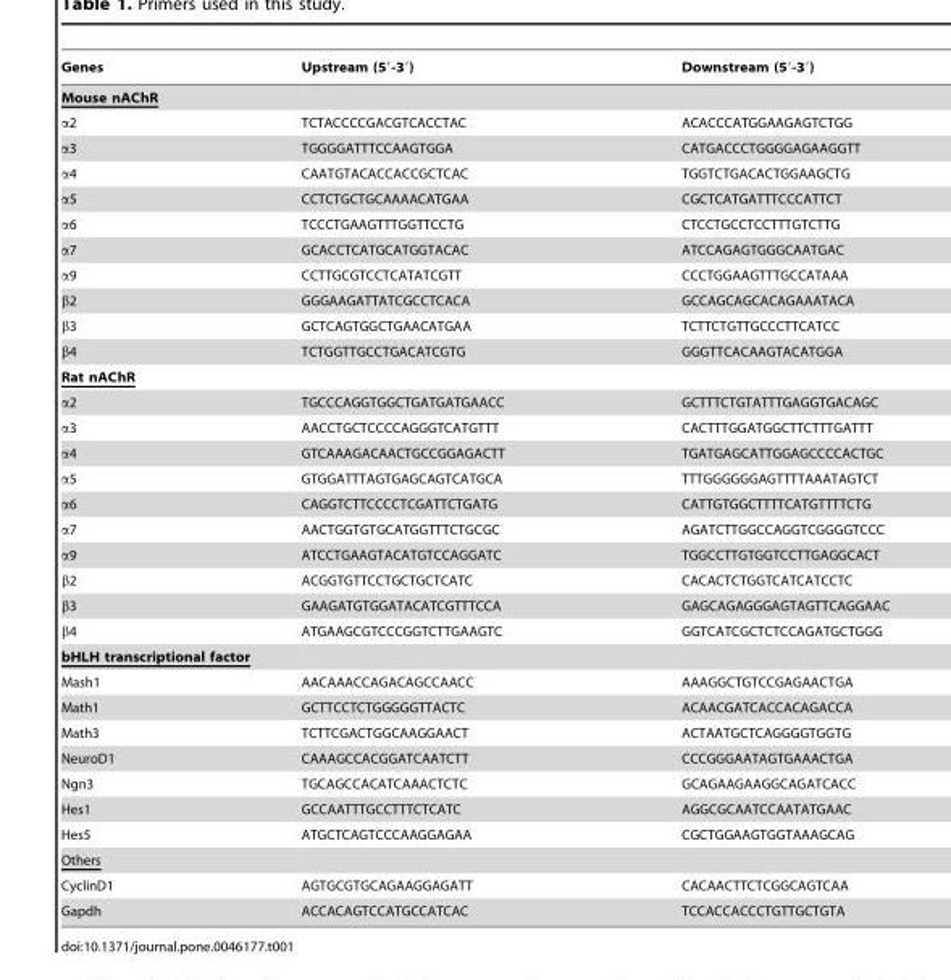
<table><thead><tr><td>Genes</td><td>Upstream (5′-3′)</td><td>Downstream (5′-3′)</td></tr></thead><tbody><tr><td colspan="3">Mouse nAChR</td></tr><tr><td>α2</td><td>TCTACCCCGACGTCACCTAC</td><td>ACACCCATGGAAGAGTCTGG</td></tr><tr><td>α3</td><td>TGGGGATTTCCAAGTGGA</td><td>CATGACCCTGGGGAGAAGGTT</td></tr><tr><td>α4</td><td>CAATGTACACCACCGCTCAC</td><td>TGGTCTGACACTGGAAGCTG</td></tr><tr><td>α5</td><td>CCTCTGCTGCAAAACATGAA</td><td>CGCTCATGATTTCCCATTCT</td></tr><tr><td>α6</td><td>TCCCTGAAGTTTGGTTCCTG</td><td>CTCCTGCCTCCTTTGTCTTG</td></tr><tr><td>α7</td><td>GCACCTCATGCATGGTACAC</td><td>ATCCAGAGTGGGCAATGAC</td></tr><tr><td>α9</td><td>CCTTGCGTCCTCATATCGTT</td><td>CCCTGGAAGTTTGCCATAAA</td></tr><tr><td>β2</td><td>GGGAAGATTATCGCCTCACA</td><td>GCCAGCAGCACAGAAATACA</td></tr><tr><td>β3</td><td>GCTCAGTGGCTGAACATGAA</td><td>TCTTCTGTTGCCCTTCATCC</td></tr><tr><td>β4</td><td>TCTGGTTGCCTGACATCGTG</td><td>GGGTTCACAAGTACATGGA</td></tr><tr><td colspan="3">Rat nAChR</td></tr><tr><td>α2</td><td>TGCCCAGGTGGCTGATGATGAACC</td><td>GCTTTCTGTATTTGAGGTGACAGC</td></tr><tr><td>α3</td><td>AACCTGCTCCCCAGGGTCATGTTT</td><td>CACTTTGGATGGCTTCTTTGATTT</td></tr><tr><td>α4</td><td>GTCAAAGACAACTGCCGGAGACTT</td><td>TGATGAGCATTGGAGCCCCACTGC</td></tr><tr><td>α5</td><td>GTGGATTTAGTGAGCAGTCATGCA</td><td>TTTGGGGGGAGTTTTAAATAGTCT</td></tr><tr><td>α6</td><td>CAGGTCTTCCCCTCGATTCTGATG</td><td>CATTGTGGCTTTTCATGTTTTCTG</td></tr><tr><td>α7</td><td>AACTGGTGTGCATGGTTTCTGCGC</td><td>AGATCTTGGCCAGGTCGGGGTCCC</td></tr><tr><td>α9</td><td>ATCCTGAAGTACATGTCCAGGATC</td><td>TGGCCTTGTGGTCCTTGAGGCACT</td></tr><tr><td>β2</td><td>ACGGTGTTCCTGCTGCTCATC</td><td>CACACTCTGGTCATCATCCTC</td></tr><tr><td>β3</td><td>GAAGATGTGGATACATCGTTTCCA</td><td>GAGCAGAGGGAGTAGTTCAGGAAC</td></tr><tr><td>β4</td><td>ATGAAGCGTCCCGGTCTTGAAGTC</td><td>GGTCATCGCTCTCCAGATGCTGGG</td></tr><tr><td colspan="3">bHLH transcriptional factor</td></tr><tr><td>Mash1</td><td>AACAAACCAGACAGCCAACC</td><td>AAAGGCTGTCCGAGAACTGA</td></tr><tr><td>Math1</td><td>GCTTCCTCTGGGGGTTACTC</td><td>ACAACGATCACCACAGACCA</td></tr><tr><td>Math3</td><td>TCTTCGACTGGCAAGGAACT</td><td>ACTAATGCTCAGGGGTGGTG</td></tr><tr><td>NeuroD1</td><td>CAAAGCCACGGATCAATCTT</td><td>CCCGGGAATAGTGAAACTGA</td></tr><tr><td>Ngn3</td><td>TGCAGCCACATCAAACTCTC</td><td>GCAGAAGAAGGCAGATCACC</td></tr><tr><td>Hes1</td><td>GCCAATTTGCCTTTCTCATC</td><td>AGGCGCAATCCAATATGAAC</td></tr><tr><td>Hes5</td><td>ATGCTCAGTCCCAAGGAGAA</td><td>CGCTGGAAGTGGTAAAGCAG</td></tr><tr><td colspan="3">Others</td></tr><tr><td>CyclinD1</td><td>AGTGCGTGCAGAAGGAGATT</td><td>CACAACTTCTCGGCAGTCAA</td></tr><tr><td>Gapdh</td><td>ACCACAGTCCATGCCATCAC</td><td>TCCACCACCCTGTTGCTGTA</td></tr></tbody></table>